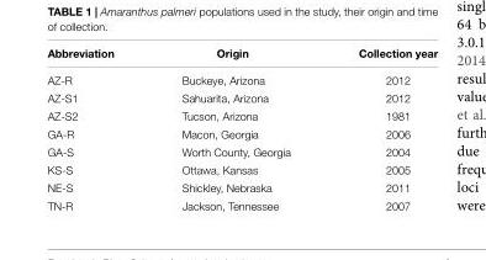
<table><thead><tr><td>Abbreviation</td><td>Origin</td><td>Collection year</td></tr></thead><tbody><tr><td>AZ-R</td><td>Buckeye, Arizona</td><td>2012</td></tr><tr><td>AZ-S1</td><td>Sahuarita, Arizona</td><td>2012</td></tr><tr><td>AZ-S2</td><td>Tucson, Arizona</td><td>1981</td></tr><tr><td>GA-R</td><td>Macon, Georgia</td><td>2006</td></tr><tr><td>GA-S</td><td>Worth County, Georgia</td><td>2004</td></tr><tr><td>KS-S</td><td>Ottawa, Kansas</td><td>2005</td></tr><tr><td>NE-S</td><td>Shickley, Nebraska</td><td>2011</td></tr><tr><td>TN-R</td><td>Jackson, Tennessee</td><td>2007</td></tr></tbody></table>